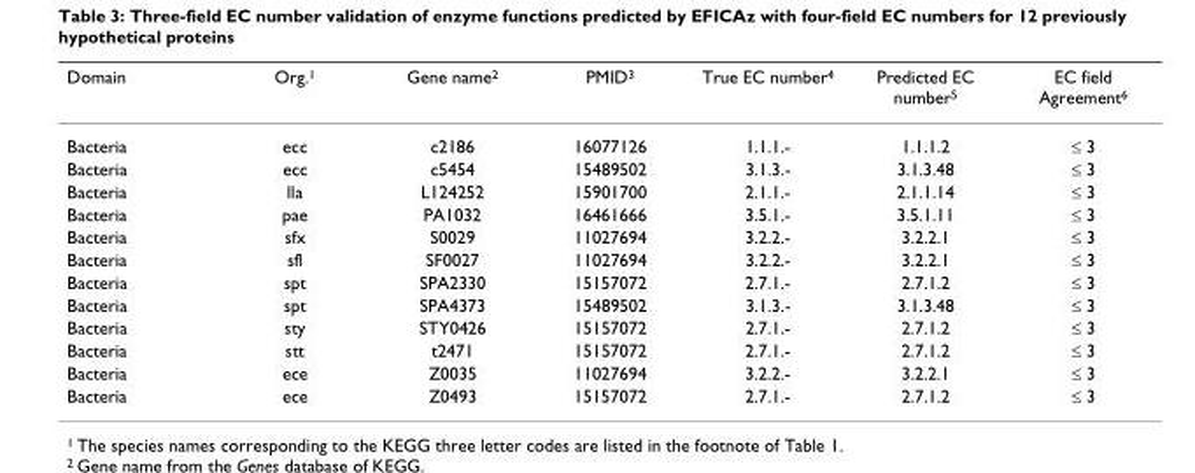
<table><thead><tr><td>Domain</td><td>Org.1</td><td>Gene name2</td><td>PMID3</td><td>True EC number4</td><td>Predicted EC number5</td><td>EC field Agreement6</td></tr></thead><tbody><tr><td>Bacteria</td><td>ecc</td><td>c2186</td><td>16077126</td><td>1.1.1.-</td><td>1.1.1.2</td><td>≤ 3</td></tr><tr><td>Bacteria</td><td>ecc</td><td>c5454</td><td>15489502</td><td>3.1.3.-</td><td>3.1.3.48</td><td>≤ 3</td></tr><tr><td>Bacteria</td><td>lla</td><td>L124252</td><td>15901700</td><td>2.1.1.-</td><td>2.1.1.14</td><td>≤ 3</td></tr><tr><td>Bacteria</td><td>pae</td><td>PA1032</td><td>16461666</td><td>3.5.1.-</td><td>3.5.1.11</td><td>≤ 3</td></tr><tr><td>Bacteria</td><td>sfx</td><td>S0029</td><td>11027694</td><td>3.2.2.-</td><td>3.2.2.1</td><td>≤ 3</td></tr><tr><td>Bacteria</td><td>sfl</td><td>SF0027</td><td>11027694</td><td>3.2.2.-</td><td>3.2.2.1</td><td>≤ 3</td></tr><tr><td>Bacteria</td><td>spt</td><td>SPA2330</td><td>15157072</td><td>2.7.1.-</td><td>2.7.1.2</td><td>≤ 3</td></tr><tr><td>Bacteria</td><td>spt</td><td>SPA4373</td><td>15489502</td><td>3.1.3.-</td><td>3.1.3.48</td><td>≤ 3</td></tr><tr><td>Bacteria</td><td>sty</td><td>STY0426</td><td>15157072</td><td>2.7.1.-</td><td>2.7.1.2</td><td>≤ 3</td></tr><tr><td>Bacteria</td><td>stt</td><td>t2471</td><td>15157072</td><td>2.7.1.-</td><td>2.7.1.2</td><td>≤ 3</td></tr><tr><td>Bacteria</td><td>ece</td><td>Z0035</td><td>11027694</td><td>3.2.2.-</td><td>3.2.2.1</td><td>≤ 3</td></tr><tr><td>Bacteria</td><td>ece</td><td>Z0493</td><td>15157072</td><td>2.7.1.-</td><td>2.7.1.2</td><td>≤ 3</td></tr></tbody></table>